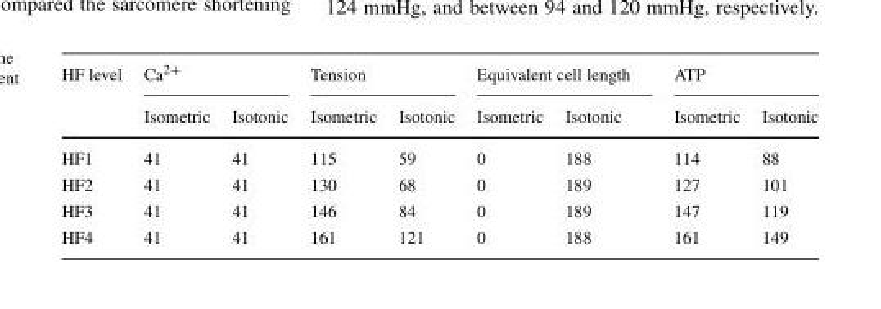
<table><thead><tr><td rowspan="2">HF level</td><td colspan="2">Ca<sup>2+</sup></td><td colspan="2">Tension</td><td colspan="2">Equivalent cell length</td><td colspan="2">ATP</td></tr><tr><td>Isometric</td><td>Isotonic</td><td>Isometric</td><td>Isotonic</td><td>Isometric</td><td>Isotonic</td><td>Isometric</td><td>Isotonic</td></tr></thead><tbody><tr><td>HF1</td><td>41</td><td>41</td><td>115</td><td>59</td><td>0</td><td>188</td><td>114</td><td>88</td></tr><tr><td>HF2</td><td>41</td><td>41</td><td>130</td><td>68</td><td>0</td><td>189</td><td>127</td><td>101</td></tr><tr><td>HF3</td><td>41</td><td>41</td><td>146</td><td>84</td><td>0</td><td>189</td><td>147</td><td>119</td></tr><tr><td>HF4</td><td>41</td><td>41</td><td>161</td><td>121</td><td>0</td><td>188</td><td>161</td><td>149</td></tr></tbody></table>